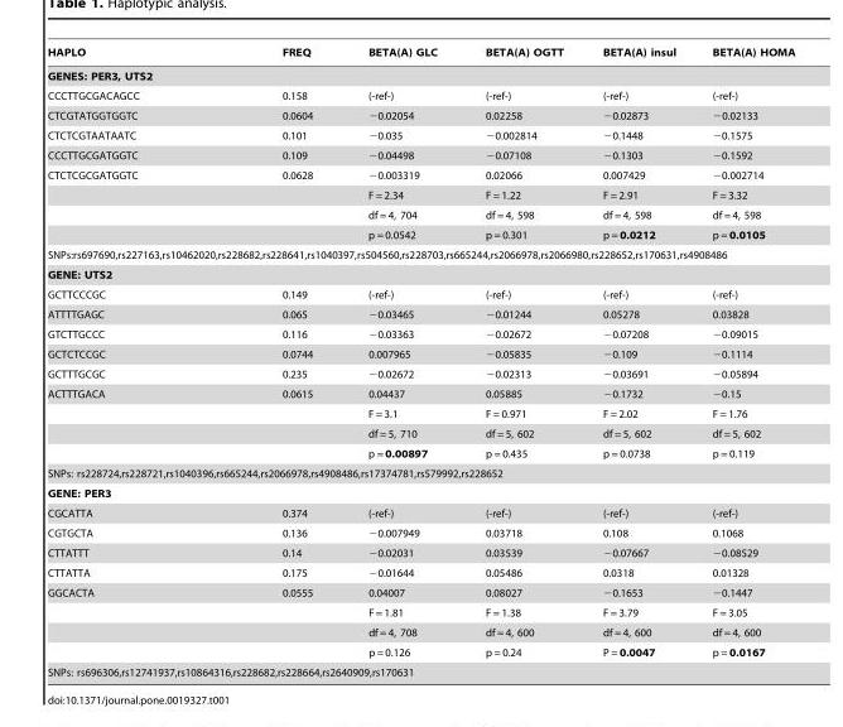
<table><thead><tr><td>HAPLO</td><td>FREQ</td><td>BETA(A) GLC</td><td>BETA(A) OGTT</td><td>BETA(A) insul</td><td>BETA(A) HOMA</td></tr></thead><tbody><tr><td colspan="6">GENES: PER3, UTS2</td></tr><tr><td>CCCTTGCGACAGCC</td><td>0.158</td><td>(-ref-)</td><td>(-ref-)</td><td>(-ref-)</td><td>(-ref-)</td></tr><tr><td>CTCGTATGGTGGTC</td><td>0.0604</td><td>−0.02054</td><td>0.02258</td><td>−0.02873</td><td>−0.02133</td></tr><tr><td>CTCTCGTAATAATC</td><td>0.101</td><td>−0.035</td><td>−0.002814</td><td>−0.1448</td><td>−0.1575</td></tr><tr><td>CCCTTGCGATGGTC</td><td>0.109</td><td>−0.04498</td><td>−0.07108</td><td>−0.1303</td><td>−0.1592</td></tr><tr><td rowspan="4">CTCTCGCGATGGTC</td><td>0.0628</td><td>−0.003319</td><td>0.02066</td><td>0.007429</td><td>−0.002714</td></tr><tr><td></td><td>F = 2.34</td><td>F = 1.22</td><td>F = 2.91</td><td>F = 3.32</td></tr><tr><td></td><td>df = 4, 704</td><td>df = 4, 598</td><td>df = 4, 598</td><td>df = 4, 598</td></tr><tr><td></td><td>p = 0.0542</td><td>p = 0.301</td><td>p = 0.0212</td><td>p = 0.0105</td></tr><tr><td colspan="6">SNPs:rs697690,rs227163,rs10462020,rs228682,rs228641,rs1040397,rs504560,rs228703,rs665244,rs2066978,rs2066980,rs228652,rs170631,rs4908486</td></tr><tr><td colspan="6">GENE: UTS2</td></tr><tr><td>GCTTCCCGC</td><td>0.149</td><td>(-ref-)</td><td>(-ref-)</td><td>(-ref-)</td><td>(-ref-)</td></tr><tr><td>ATTTTGAGC</td><td>0.065</td><td>−0.03465</td><td>−0.01244</td><td>0.05278</td><td>0.03828</td></tr><tr><td>GTCTTGCCC</td><td>0.116</td><td>−0.03363</td><td>−0.02672</td><td>−0.07208</td><td>−0.09015</td></tr><tr><td>GCTCTCCGC</td><td>0.0744</td><td>0.007965</td><td>−0.05835</td><td>−0.109</td><td>−0.1114</td></tr><tr><td>GCTTTGCGC</td><td>0.235</td><td>−0.02672</td><td>−0.02313</td><td>−0.03691</td><td>−0.05894</td></tr><tr><td rowspan="4">ACTTTGACA</td><td>0.0615</td><td>0.04437</td><td>0.05885</td><td>−0.1732</td><td>−0.15</td></tr><tr><td></td><td>F = 3.1</td><td>F = 0.971</td><td>F = 2.02</td><td>F = 1.76</td></tr><tr><td></td><td>df = 5, 710</td><td>df = 5, 602</td><td>df = 5, 602</td><td>df = 5, 602</td></tr><tr><td></td><td>p = 0.00897</td><td>p = 0.435</td><td>p = 0.0738</td><td>p = 0.119</td></tr><tr><td colspan="6">SNPs: rs228724,rs228721,rs1040396,rs665244,rs2066978,rs4908486,rs17374781,rs579992,rs228652</td></tr><tr><td colspan="6">GENE: PER3</td></tr><tr><td>CGCATTA</td><td>0.374</td><td>(-ref-)</td><td>(-ref-)</td><td>(-ref-)</td><td>(-ref-)</td></tr><tr><td>CGTGCTA</td><td>0.136</td><td>−0.007949</td><td>0.03718</td><td>0.108</td><td>0.1068</td></tr><tr><td>CTTATTT</td><td>0.14</td><td>−0.02031</td><td>0.03539</td><td>−0.07667</td><td>−0.08529</td></tr><tr><td>CTTATTA</td><td>0.175</td><td>−0.01644</td><td>0.05486</td><td>0.0318</td><td>0.01328</td></tr><tr><td rowspan="4">GGCACTA</td><td>0.0555</td><td>0.04007</td><td>0.08027</td><td>−0.1653</td><td>−0.1447</td></tr><tr><td></td><td>F = 1.81</td><td>F = 1.38</td><td>F = 3.79</td><td>F = 3.05</td></tr><tr><td></td><td>df = 4, 708</td><td>df = 4, 600</td><td>df = 4, 600</td><td>df = 4, 600</td></tr><tr><td></td><td>p = 0.126</td><td>p = 0.24</td><td>P = 0.0047</td><td>p = 0.0167</td></tr><tr><td colspan="6">SNPs: rs696306,rs12741937,rs10864316,rs228682,rs228664,rs2640909,rs170631</td></tr></tbody></table>